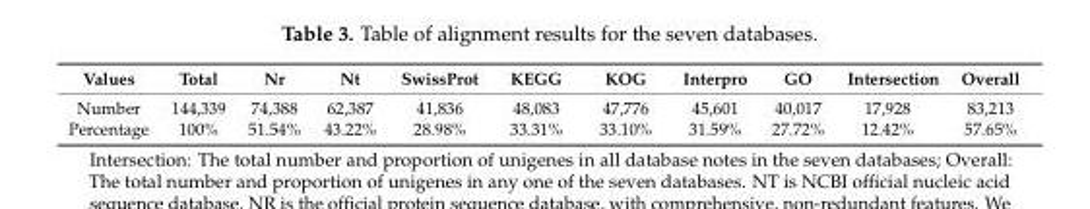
<table><thead><tr><td>Values</td><td>Total</td><td>Nr</td><td>Nt</td><td>SwissProt</td><td>KEGG</td><td>KOG</td><td>Interpro</td><td>GO</td><td>Intersection</td><td>Overall</td></tr></thead><tbody><tr><td>Number</td><td>144,339</td><td>74,388</td><td>62,387</td><td>41,836</td><td>48,083</td><td>47,776</td><td>45,601</td><td>40,017</td><td>17,928</td><td>83,213</td></tr><tr><td>Percentage</td><td>100%</td><td>51.54%</td><td>43.22%</td><td>28.98%</td><td>33.31%</td><td>33.10%</td><td>31.59%</td><td>27.72%</td><td>12.42%</td><td>57.65%</td></tr></tbody></table>